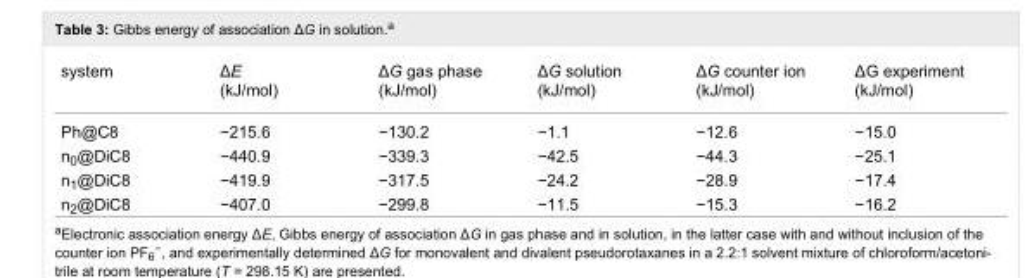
<table><tbody><tr><td>system</td><td>ΔE (kJ/mol)</td><td>ΔG gas phase (kJ/mol)</td><td>ΔG solution (kJ/mol)</td><td>ΔG counter ion (kJ/mol)</td><td>ΔG experiment (kJ/mol)</td></tr><tr><td>Ph@C8</td><td>−215.6</td><td>−130.2</td><td>−1.1</td><td>−12.6</td><td>−15.0</td></tr><tr><td>n<sub>0</sub>@DiC8</td><td>−440.9</td><td>−339.3</td><td>−42.5</td><td>−44.3</td><td>−25.1</td></tr><tr><td>n<sub>1</sub>@DiC8</td><td>−419.9</td><td>−317.5</td><td>−24.2</td><td>−28.9</td><td>−17.4</td></tr><tr><td>n<sub>2</sub>@DiC8</td><td>−407.0</td><td>−299.8</td><td>−11.5</td><td>−15.3</td><td>−16.2</td></tr></tbody></table>